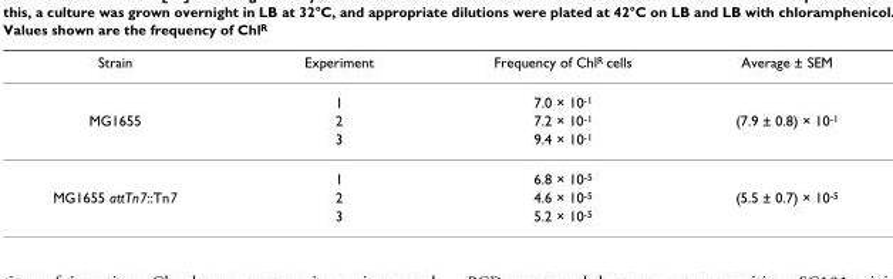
<table><thead><tr><td>Strain</td><td>Experiment</td><td>Frequency of ChlR cells</td><td>Average ± SEM</td></tr></thead><tbody><tr><td></td><td>1</td><td>7.0 × 10-1</td><td></td></tr><tr><td rowspan="3">MG1655</td><td>2</td><td>7.2 × 10-1</td><td>(7.9 ± 0.8) × 10-1</td></tr><tr><td>3</td><td>9.4 × 10-1</td><td></td></tr><tr><td>1</td><td>6.8 × 10-5</td><td></td></tr><tr><td rowspan="2">MG1655 attTn7::Tn7</td><td>2</td><td>4.6 × 10-5</td><td>(5.5 ± 0.7) × 10-5</td></tr><tr><td>3</td><td>5.2 × 10-5</td><td></td></tr></tbody></table>